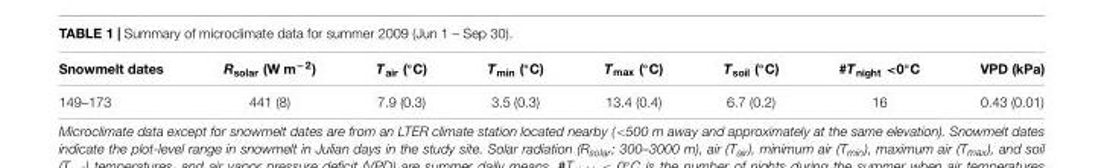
<table><thead><tr><td>Snowmelt dates</td><td>R<sub>solar</sub> (W m<sup>−2</sup>)</td><td>Tair (◦C)</td><td>Tmin (◦C)</td><td>Tmax (◦C)</td><td>Tsoil (◦C)</td><td>#Tnight &lt;0◦C</td><td>VPD (kPa)</td></tr></thead><tbody><tr><td>149–173</td><td>441 (8)</td><td>7.9 (0.3)</td><td>3.5 (0.3)</td><td>13.4 (0.4)</td><td>6.7 (0.2)</td><td>16</td><td>0.43 (0.01)</td></tr></tbody></table>